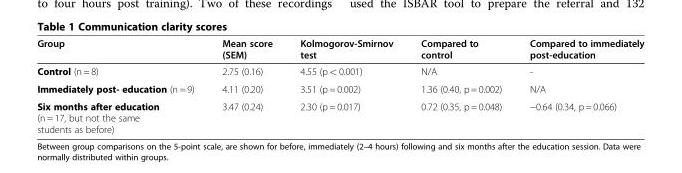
<table><thead><tr><td>Group</td><td>Mean score (SEM)</td><td>Kolmogorov-Smirnov test</td><td>Compared to control</td><td>Compared to immediately post-education</td></tr></thead><tbody><tr><td>Control (n = 8)</td><td>2.75 (0.16)</td><td>4.55 (p &lt; 0.001)</td><td>N/A</td><td>-</td></tr><tr><td>Immediately post- education (n = 9)</td><td>4.11 (0.20)</td><td>3.51 (p = 0.002)</td><td>1.36 (0.40, p = 0.002)</td><td>N/A</td></tr><tr><td>Six months after education (n = 17, but not the same students as before)</td><td>3.47 (0.24)</td><td>2.30 (p = 0.017)</td><td>0.72 (0.35, p = 0.048)</td><td>−0.64 (0.34, p = 0.066)</td></tr></tbody></table>